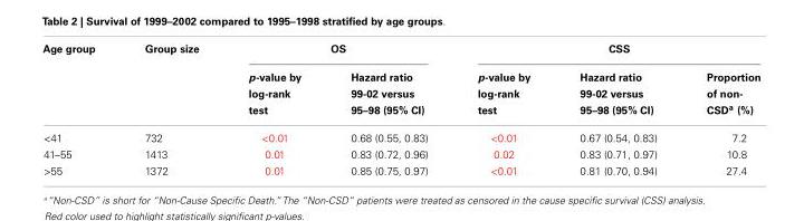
<table><thead><tr><td rowspan="2">Age group</td><td rowspan="2">Group size</td><td colspan="2">OS</td><td colspan="3">CSS</td></tr><tr><td>p-value by log-rank test</td><td>Hazard ratio 99-02 versus 95–98 (95% CI)</td><td>p-value by log-rank test</td><td>Hazard ratio 99-02 versus 95–98 (95% CI)</td><td>Proportion of non- CSD<sup>a</sup> (%)</td></tr></thead><tbody><tr><td>&lt;41</td><td>732</td><td>&lt;0.01</td><td>0.68 (0.55, 0.83)</td><td>&lt;0.01</td><td>0.67 (0.54, 0.83)</td><td>7.2</td></tr><tr><td>41–55</td><td>1413</td><td>0.01</td><td>0.83 (0.72, 0.96)</td><td>0.02</td><td>0.83 (0.71, 0.97)</td><td>10.8</td></tr><tr><td>&gt;55</td><td>1372</td><td>0.01</td><td>0.85 (0.75, 0.97)</td><td>&lt;0.01</td><td>0.81 (0.70, 0.94)</td><td>27.4</td></tr></tbody></table>